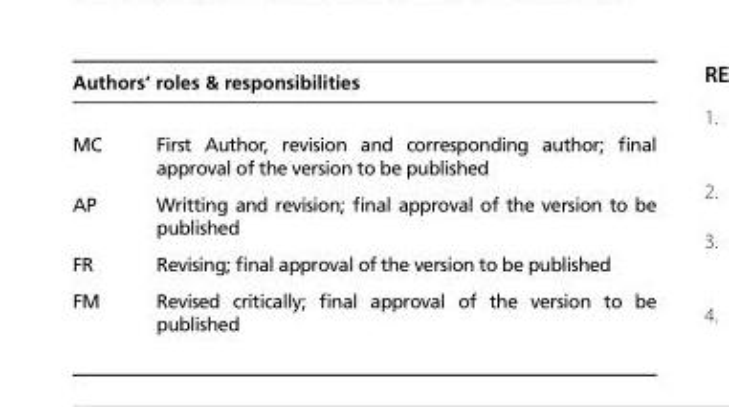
<table><thead><tr><td colspan="2">Authors’ roles &amp; responsibilities</td></tr><tr><td>MC</td><td>First Author, revision and corresponding author; final approval of the version to be published</td></tr></thead><tbody><tr><td>AP</td><td>Writting and revision; final approval of the version to be published</td></tr><tr><td>FR</td><td>Revising; final approval of the version to be published</td></tr><tr><td>FM</td><td>Revised critically; final approval of the version to be published</td></tr></tbody></table>